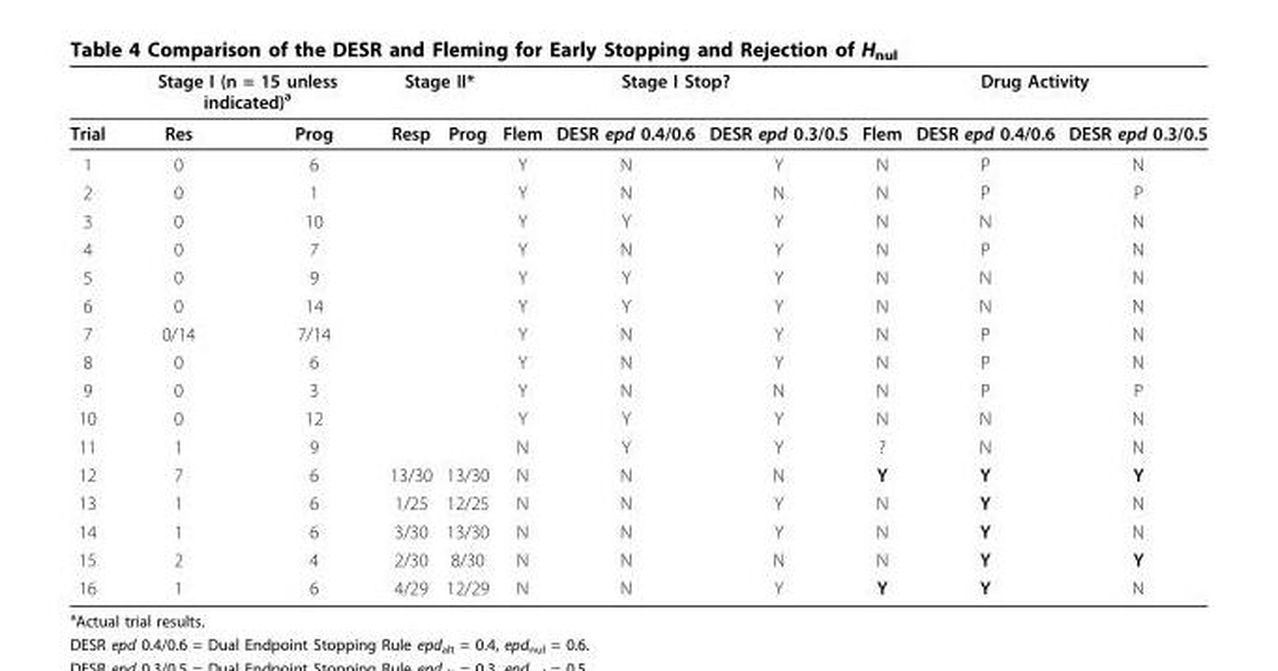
<table><thead><tr><td rowspan="2">Trial</td><td colspan="2">Stage I (n = 15 unless indicated)<sup>a</sup></td><td colspan="2">Stage II*</td><td colspan="3">Stage I Stop?</td><td colspan="3">Drug Activity</td></tr><tr><td>Res</td><td>Prog</td><td>Resp</td><td>Prog</td><td>Flem</td><td>DESR epd 0.4/0.6</td><td>DESR epd 0.3/0.5</td><td>Flem</td><td>DESR epd 0.4/0.6</td><td>DESR epd 0.3/0.5</td></tr></thead><tbody><tr><td>1</td><td>0</td><td>6</td><td></td><td></td><td>Y</td><td>N</td><td>Y</td><td>N</td><td>P</td><td>N</td></tr><tr><td>2</td><td>0</td><td>1</td><td></td><td></td><td>Y</td><td>N</td><td>N</td><td>N</td><td>P</td><td>P</td></tr><tr><td>3</td><td>0</td><td>10</td><td></td><td></td><td>Y</td><td>Y</td><td>Y</td><td>N</td><td>N</td><td>N</td></tr><tr><td>4</td><td>0</td><td>7</td><td></td><td></td><td>Y</td><td>N</td><td>Y</td><td>N</td><td>P</td><td>N</td></tr><tr><td>5</td><td>0</td><td>9</td><td></td><td></td><td>Y</td><td>Y</td><td>Y</td><td>N</td><td>N</td><td>N</td></tr><tr><td>6</td><td>0</td><td>14</td><td></td><td></td><td>Y</td><td>Y</td><td>Y</td><td>N</td><td>N</td><td>N</td></tr><tr><td>7</td><td>0/14</td><td>7/14</td><td></td><td></td><td>Y</td><td>N</td><td>Y</td><td>N</td><td>P</td><td>N</td></tr><tr><td>8</td><td>0</td><td>6</td><td></td><td></td><td>Y</td><td>N</td><td>Y</td><td>N</td><td>P</td><td>N</td></tr><tr><td>9</td><td>0</td><td>3</td><td></td><td></td><td>Y</td><td>N</td><td>N</td><td>N</td><td>P</td><td>P</td></tr><tr><td>10</td><td>0</td><td>12</td><td></td><td></td><td>Y</td><td>Y</td><td>Y</td><td>N</td><td>N</td><td>N</td></tr><tr><td>11</td><td>1</td><td>9</td><td></td><td></td><td>N</td><td>Y</td><td>Y</td><td>?</td><td>N</td><td>N</td></tr><tr><td>12</td><td>7</td><td>6</td><td>13/30</td><td>13/30</td><td>N</td><td>N</td><td>N</td><td>Y</td><td>Y</td><td>Y</td></tr><tr><td>13</td><td>1</td><td>6</td><td>1/25</td><td>12/25</td><td>N</td><td>N</td><td>Y</td><td>N</td><td>Y</td><td>N</td></tr><tr><td>14</td><td>1</td><td>6</td><td>3/30</td><td>13/30</td><td>N</td><td>N</td><td>Y</td><td>N</td><td>Y</td><td>N</td></tr><tr><td>15</td><td>2</td><td>4</td><td>2/30</td><td>8/30</td><td>N</td><td>N</td><td>N</td><td>N</td><td>Y</td><td>Y</td></tr><tr><td>16</td><td>1</td><td>6</td><td>4/29</td><td>12/29</td><td>N</td><td>N</td><td>Y</td><td>Y</td><td>Y</td><td>N</td></tr></tbody></table>